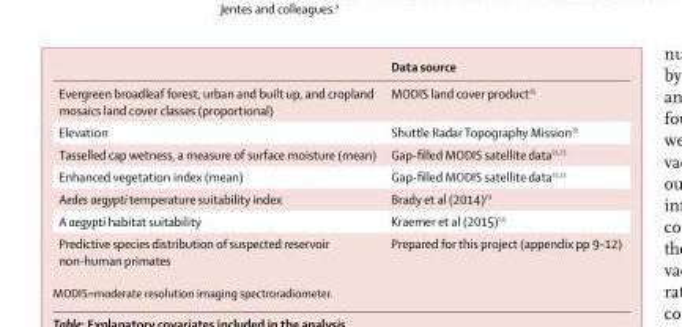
<table><thead><tr><td></td><td>Data source</td></tr></thead><tbody><tr><td>Evergreen broadleaf forest, urban and built up, and cropland mosaics land cover classes (proportional)</td><td>MODIS land cover product<sup>25</sup></td></tr><tr><td>Elevation</td><td>Shuttle Radar Topography Mission<sup>20</sup></td></tr><tr><td>Tasselled cap wetness, a measure of surface moisture (mean)</td><td>Gap-filled MODIS satellite data<sup>21</sup>,<sup>22</sup></td></tr><tr><td>Enhanced vegetation index (mean)</td><td>Gap-filled MODIS satellite data<sup>21</sup>,<sup>22</sup></td></tr><tr><td>Aedes aegypti temperature suitability index</td><td>Brady et al (2014)<sup>23</sup></td></tr><tr><td>A aegypti habitat suitability</td><td>Kraemer et al (2015)<sup>24</sup></td></tr><tr><td>Predictive species distribution of suspected reservoir non-human primates</td><td>Prepared for this project (appendix pp 9–12)</td></tr></tbody></table>